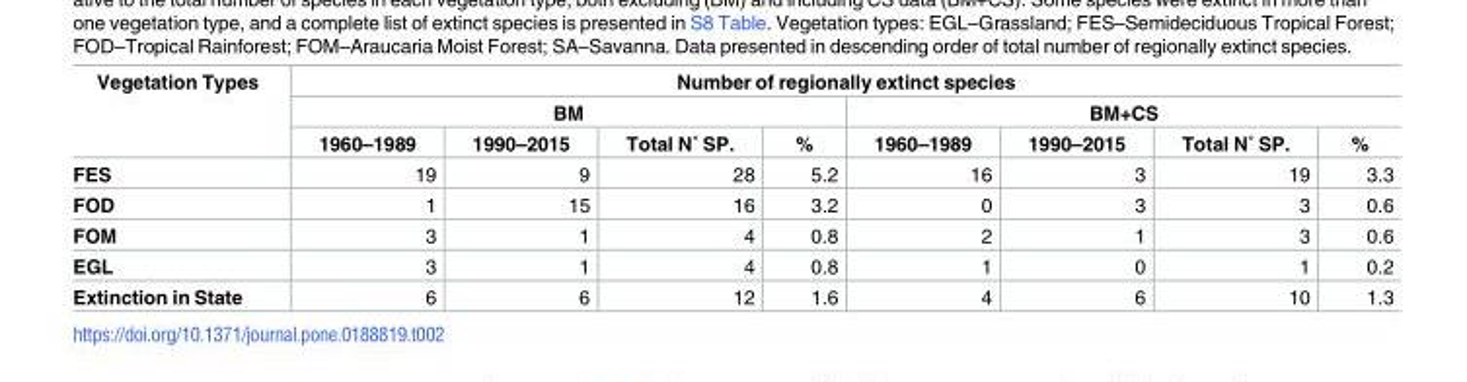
<table><thead><tr><td rowspan="3">Vegetation Types</td><td colspan="8">Number of regionally extinct species</td></tr><tr><td colspan="4">BM</td><td colspan="4">BM+CS</td></tr><tr><td>1960–1989</td><td>1990–2015</td><td>Total N˚ SP.</td><td>%</td><td>1960–1989</td><td>1990–2015</td><td>Total N˚ SP.</td><td>%</td></tr></thead><tbody><tr><td>FES</td><td>19</td><td>9</td><td>28</td><td>5.2</td><td>16</td><td>3</td><td>19</td><td>3.3</td></tr><tr><td>FOD</td><td>1</td><td>15</td><td>16</td><td>3.2</td><td>0</td><td>3</td><td>3</td><td>0.6</td></tr><tr><td>FOM</td><td>3</td><td>1</td><td>4</td><td>0.8</td><td>2</td><td>1</td><td>3</td><td>0.6</td></tr><tr><td>EGL</td><td>3</td><td>1</td><td>4</td><td>0.8</td><td>1</td><td>0</td><td>1</td><td>0.2</td></tr><tr><td>Extinction in State</td><td>6</td><td>6</td><td>12</td><td>1.6</td><td>4</td><td>6</td><td>10</td><td>1.3</td></tr></tbody></table>